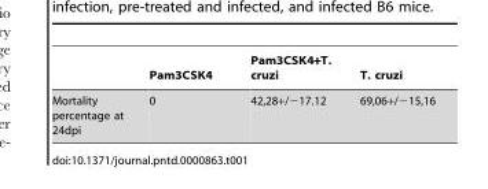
<table><thead><tr><td></td><td>Pam3CSK4</td><td>Pam3CSK4+T. cruzi</td><td>T. cruzi</td></tr></thead><tbody><tr><td>Mortality percentage at 24dpi</td><td>0</td><td>42,28+/−17.12</td><td>69,06+/−15,16</td></tr></tbody></table>